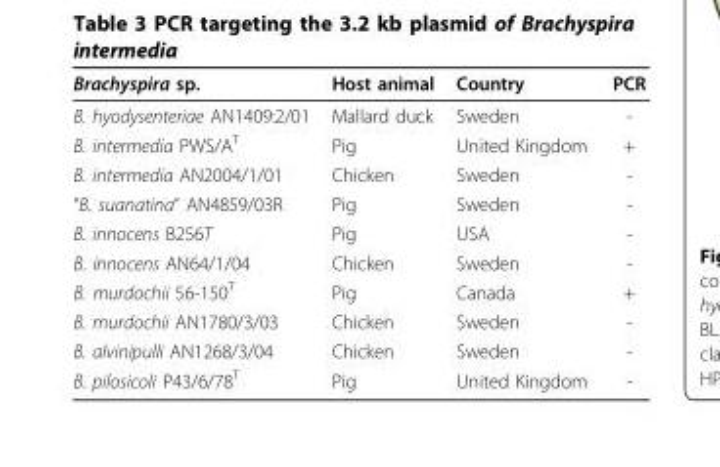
<table><thead><tr><td>Brachyspira sp.</td><td>Host animal</td><td>Country</td><td>PCR</td></tr></thead><tbody><tr><td>B. hyodysenteriae AN1409:2/01</td><td>Mallard duck</td><td>Sweden</td><td>-</td></tr><tr><td>B. intermedia PWS/A<sup>T</sup></td><td>Pig</td><td>United Kingdom</td><td>+</td></tr><tr><td>B. intermedia AN2004/1/01</td><td>Chicken</td><td>Sweden</td><td>-</td></tr><tr><td>“B. suanatina“ AN4859/03R</td><td>Pig</td><td>Sweden</td><td>-</td></tr><tr><td>B. innocens B256T</td><td>Pig</td><td>USA</td><td>-</td></tr><tr><td>B. innocens AN64/1/04</td><td>Chicken</td><td>Sweden</td><td>-</td></tr><tr><td>B. murdochii 56-150<sup>T</sup></td><td>Pig</td><td>Canada</td><td>+</td></tr><tr><td>B. murdochii AN1780/3/03</td><td>Chicken</td><td>Sweden</td><td>-</td></tr><tr><td>B. alvinipulli AN1268/3/04</td><td>Chicken</td><td>Sweden</td><td>-</td></tr><tr><td>B. pilosicoli P43/6/78<sup>T</sup></td><td>Pig</td><td>United Kingdom</td><td>-</td></tr></tbody></table>